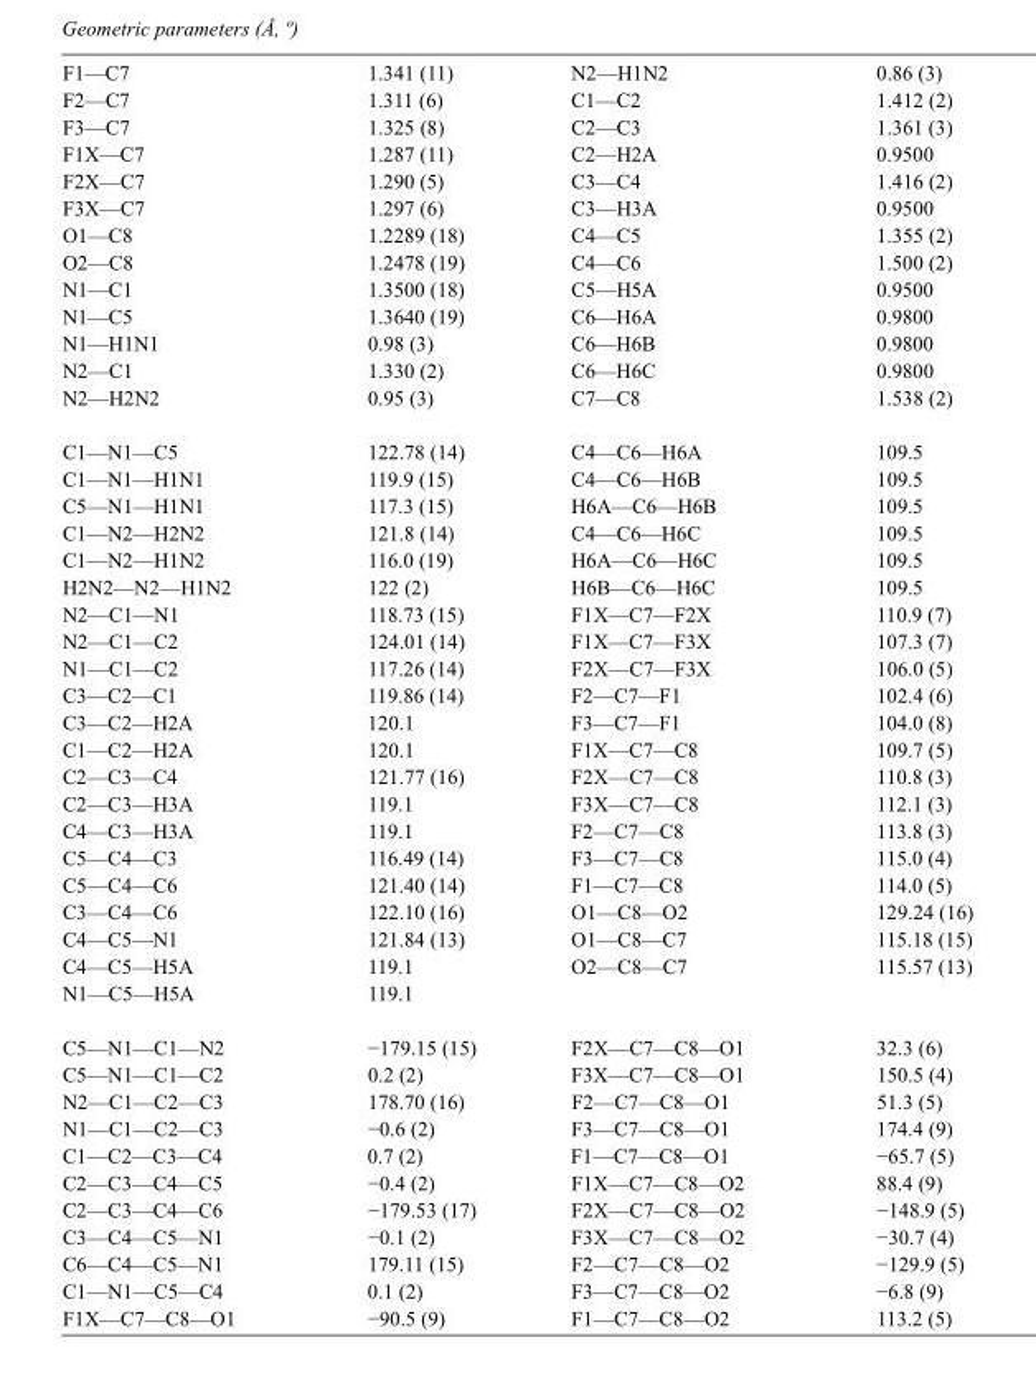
<table><tbody><tr><td>F1—C7</td><td>1.341 (11)</td><td>N2—H1N2</td><td>0.86 (3)</td></tr><tr><td>F2—C7</td><td>1.311 (6)</td><td>C1—C2</td><td>1.412 (2)</td></tr><tr><td>F3—C7</td><td>1.325 (8)</td><td>C2—C3</td><td>1.361 (3)</td></tr><tr><td>F1X—C7</td><td>1.287 (11)</td><td>C2—H2A</td><td>0.9500</td></tr><tr><td>F2X—C7</td><td>1.290 (5)</td><td>C3—C4</td><td>1.416 (2)</td></tr><tr><td>F3X—C7</td><td>1.297 (6)</td><td>C3—H3A</td><td>0.9500</td></tr><tr><td>O1—C8</td><td>1.2289 (18)</td><td>C4—C5</td><td>1.355 (2)</td></tr><tr><td>O2—C8</td><td>1.2478 (19)</td><td>C4—C6</td><td>1.500 (2)</td></tr><tr><td>N1—C1</td><td>1.3500 (18)</td><td>C5—H5A</td><td>0.9500</td></tr><tr><td>N1—C5</td><td>1.3640 (19)</td><td>C6—H6A</td><td>0.9800</td></tr><tr><td>N1—H1N1</td><td>0.98 (3)</td><td>C6—H6B</td><td>0.9800</td></tr><tr><td>N2—C1</td><td>1.330 (2)</td><td>C6—H6C</td><td>0.9800</td></tr><tr><td>N2—H2N2</td><td>0.95 (3)</td><td>C7—C8</td><td>1.538 (2)</td></tr><tr><td>C1—N1—C5</td><td>122.78 (14)</td><td>C4—C6—H6A</td><td>109.5</td></tr><tr><td>C1—N1—H1N1</td><td>119.9 (15)</td><td>C4—C6—H6B</td><td>109.5</td></tr><tr><td>C5—N1—H1N1</td><td>117.3 (15)</td><td>H6A—C6—H6B</td><td>109.5</td></tr><tr><td>C1—N2—H2N2</td><td>121.8 (14)</td><td>C4—C6—H6C</td><td>109.5</td></tr><tr><td>C1—N2—H1N2</td><td>116.0 (19)</td><td>H6A—C6—H6C</td><td>109.5</td></tr><tr><td>H2N2—N2—H1N2</td><td>122 (2)</td><td>H6B—C6—H6C</td><td>109.5</td></tr><tr><td>N2—C1—N1</td><td>118.73 (15)</td><td>F1X—C7—F2X</td><td>110.9 (7)</td></tr><tr><td>N2—C1—C2</td><td>124.01 (14)</td><td>F1X—C7—F3X</td><td>107.3 (7)</td></tr><tr><td>N1—C1—C2</td><td>117.26 (14)</td><td>F2X—C7—F3X</td><td>106.0 (5)</td></tr><tr><td>C3—C2—C1</td><td>119.86 (14)</td><td>F2—C7—F1</td><td>102.4 (6)</td></tr><tr><td>C3—C2—H2A</td><td>120.1</td><td>F3—C7—F1</td><td>104.0 (8)</td></tr><tr><td>C1—C2—H2A</td><td>120.1</td><td>F1X—C7—C8</td><td>109.7 (5)</td></tr><tr><td>C2—C3—C4</td><td>121.77 (16)</td><td>F2X—C7—C8</td><td>110.8 (3)</td></tr><tr><td>C2—C3—H3A</td><td>119.1</td><td>F3X—C7—C8</td><td>112.1 (3)</td></tr><tr><td>C4—C3—H3A</td><td>119.1</td><td>F2—C7—C8</td><td>113.8 (3)</td></tr><tr><td>C5—C4—C3</td><td>116.49 (14)</td><td>F3—C7—C8</td><td>115.0 (4)</td></tr><tr><td>C5—C4—C6</td><td>121.40 (14)</td><td>F1—C7—C8</td><td>114.0 (5)</td></tr><tr><td>C3—C4—C6</td><td>122.10 (16)</td><td>O1—C8—O2</td><td>129.24 (16)</td></tr><tr><td>C4—C5—N1</td><td>121.84 (13)</td><td>O1—C8—C7</td><td>115.18 (15)</td></tr><tr><td>C4—C5—H5A</td><td>119.1</td><td>O2—C8—C7</td><td>115.57 (13)</td></tr><tr><td>N1—C5—H5A</td><td>119.1</td><td></td><td></td></tr><tr><td>C5—N1—C1—N2</td><td>−179.15 (15)</td><td>F2X—C7—C8—O1</td><td>32.3 (6)</td></tr><tr><td>C5—N1—C1—C2</td><td>0.2 (2)</td><td>F3X—C7—C8—O1</td><td>150.5 (4)</td></tr><tr><td>N2—C1—C2—C3</td><td>178.70 (16)</td><td>F2—C7—C8—O1</td><td>51.3 (5)</td></tr><tr><td>N1—C1—C2—C3</td><td>−0.6 (2)</td><td>F3—C7—C8—O1</td><td>174.4 (9)</td></tr><tr><td>C1—C2—C3—C4</td><td>0.7 (2)</td><td>F1—C7—C8—O1</td><td>−65.7 (5)</td></tr><tr><td>C2—C3—C4—C5</td><td>−0.4 (2)</td><td>F1X—C7—C8—O2</td><td>88.4 (9)</td></tr><tr><td>C2—C3—C4—C6</td><td>−179.53 (17)</td><td>F2X—C7—C8—O2</td><td>−148.9 (5)</td></tr><tr><td>C3—C4—C5—N1</td><td>−0.1 (2)</td><td>F3X—C7—C8—O2</td><td>−30.7 (4)</td></tr><tr><td>C6—C4—C5—N1</td><td>179.11 (15)</td><td>F2—C7—C8—O2</td><td>−129.9 (5)</td></tr><tr><td>C1—N1—C5—C4</td><td>0.1 (2)</td><td>F3—C7—C8—O2</td><td>−6.8 (9)</td></tr><tr><td>F1X—C7—C8—O1</td><td>−90.5 (9)</td><td>F1—C7—C8—O2</td><td>113.2 (5)</td></tr></tbody></table>